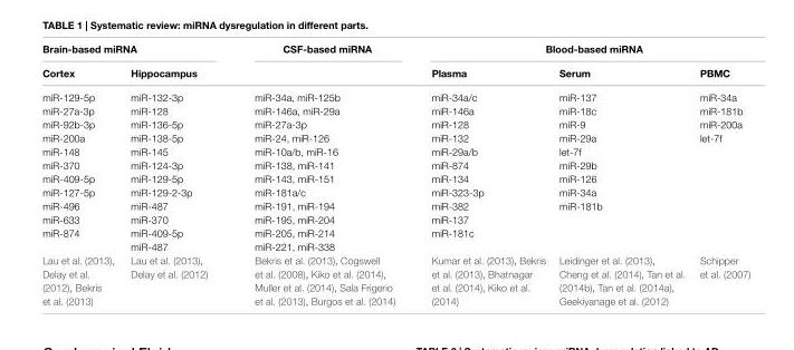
<table><thead><tr><td colspan="2">Brain-based miRNA</td><td rowspan="2">CSF-based miRNA</td><td colspan="3">Blood-based miRNA</td></tr><tr><td>Cortex</td><td>Hippocampus</td><td>Plasma</td><td>Serum</td><td>PBMC</td></tr></thead><tbody><tr><td>miR-129-5p</td><td>miR-132-3p</td><td>miR-34a, miR-125b</td><td>miR-34a/c</td><td>miR-137</td><td>miR-34a</td></tr><tr><td>miR-27a-3p</td><td>miR-128</td><td>miR-146a, miR-29a</td><td>miR-146a</td><td>miR-18c</td><td>miR-181b</td></tr><tr><td>miR-92b-3p</td><td>miR-136-5p</td><td>miR-27a-3p</td><td>miR-128</td><td>miR-9</td><td>miR-200a</td></tr><tr><td>miR-200a</td><td>miR-138-5p</td><td>miR-24, miR-126</td><td>miR-132</td><td>miR-29a</td><td>let-7f</td></tr><tr><td>miR-148</td><td>miR-145</td><td>miR-10a/b, miR-16</td><td>miR-29a/b</td><td>let-7f</td><td></td></tr><tr><td>miR-370</td><td>miR-124-3p</td><td>miR-138, miR-141</td><td>miR-874</td><td>miR-29b</td><td></td></tr><tr><td>miR-409-5p</td><td>miR-129-5p</td><td>miR-143, miR-151</td><td>miR-134</td><td>miR-126</td><td></td></tr><tr><td>miR-127-5p</td><td>miR-129-2-3p</td><td>miR-181a/c</td><td>miR-323-3p</td><td>miR-34a</td><td></td></tr><tr><td>miR-496</td><td>miR-487</td><td>miR-191, miR-194</td><td>miR-382</td><td>miR-181b</td><td rowspan="4"></td></tr><tr><td>miR-633</td><td>miR-370</td><td>miR-195, miR-204</td><td>miR-137</td><td></td></tr><tr><td rowspan="2">miR-874</td><td>miR-409-5p</td><td>miR-205, miR-214</td><td>miR-181c</td><td></td></tr><tr><td>miR-487</td><td>miR-221, miR-338</td><td></td><td></td></tr><tr><td>Lau et al. (2013), Delay et al. (2012), Bekris et al. (2013)</td><td>Lau et al. (2013), Delay et al. (2012)</td><td>Bekris et al. (2013), Cogswell et al. (2008), Kiko et al. (2014), Muller et al. (2014), Sala Frigerio et al. (2013), Burgos et al. (2014)</td><td>Kumar et al. (2013), Bekris et al. (2013), Bhatnagar et al. (2014), Kiko et al. (2014)</td><td>Leidinger et al. (2013), Cheng et al. (2014), Tan et al. (2014b), Tan et al. (2014a), Geekiyanage et al. (2012)</td><td>Schipper et al. (2007)</td></tr></tbody></table>